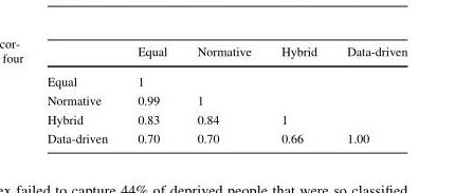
<table><thead><tr><td></td><td>Equal</td><td>Normative</td><td>Hybrid</td><td>Data-driven</td></tr></thead><tbody><tr><td>Equal</td><td>1</td><td></td><td></td><td></td></tr><tr><td>Normative</td><td>0.99</td><td>1</td><td></td><td></td></tr><tr><td>Hybrid</td><td>0.83</td><td>0.84</td><td>1</td><td></td></tr><tr><td>Data-driven</td><td>0.70</td><td>0.70</td><td>0.66</td><td>1.00</td></tr></tbody></table>